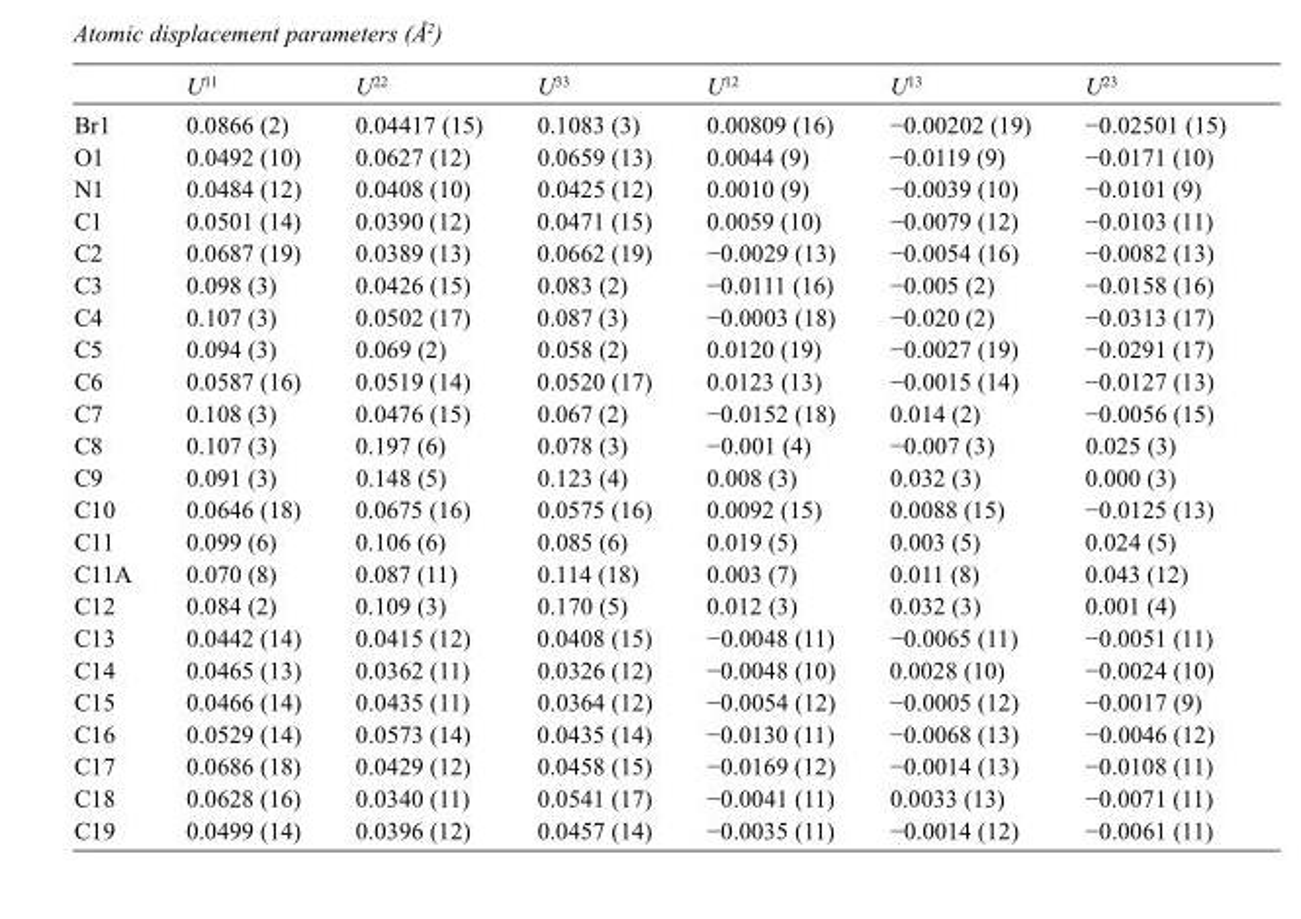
<table><thead><tr><td></td><td>U<sup>11</sup></td><td>U<sup>22</sup></td><td>U<sup>33</sup></td><td>U<sup>12</sup></td><td>U<sup>13</sup></td><td>U<sup>23</sup></td></tr></thead><tbody><tr><td>Br1</td><td>0.0866 (2)</td><td>0.04417 (15)</td><td>0.1083 (3)</td><td>0.00809 (16)</td><td>−0.00202 (19)</td><td>−0.02501 (15)</td></tr><tr><td>O1</td><td>0.0492 (10)</td><td>0.0627 (12)</td><td>0.0659 (13)</td><td>0.0044 (9)</td><td>−0.0119 (9)</td><td>−0.0171 (10)</td></tr><tr><td>N1</td><td>0.0484 (12)</td><td>0.0408 (10)</td><td>0.0425 (12)</td><td>0.0010 (9)</td><td>−0.0039 (10)</td><td>−0.0101 (9)</td></tr><tr><td>C1</td><td>0.0501 (14)</td><td>0.0390 (12)</td><td>0.0471 (15)</td><td>0.0059 (10)</td><td>−0.0079 (12)</td><td>−0.0103 (11)</td></tr><tr><td>C2</td><td>0.0687 (19)</td><td>0.0389 (13)</td><td>0.0662 (19)</td><td>−0.0029 (13)</td><td>−0.0054 (16)</td><td>−0.0082 (13)</td></tr><tr><td>C3</td><td>0.098 (3)</td><td>0.0426 (15)</td><td>0.083 (2)</td><td>−0.0111 (16)</td><td>−0.005 (2)</td><td>−0.0158 (16)</td></tr><tr><td>C4</td><td>0.107 (3)</td><td>0.0502 (17)</td><td>0.087 (3)</td><td>−0.0003 (18)</td><td>−0.020 (2)</td><td>−0.0313 (17)</td></tr><tr><td>C5</td><td>0.094 (3)</td><td>0.069 (2)</td><td>0.058 (2)</td><td>0.0120 (19)</td><td>−0.0027 (19)</td><td>−0.0291 (17)</td></tr><tr><td>C6</td><td>0.0587 (16)</td><td>0.0519 (14)</td><td>0.0520 (17)</td><td>0.0123 (13)</td><td>−0.0015 (14)</td><td>−0.0127 (13)</td></tr><tr><td>C7</td><td>0.108 (3)</td><td>0.0476 (15)</td><td>0.067 (2)</td><td>−0.0152 (18)</td><td>0.014 (2)</td><td>−0.0056 (15)</td></tr><tr><td>C8</td><td>0.107 (3)</td><td>0.197 (6)</td><td>0.078 (3)</td><td>−0.001 (4)</td><td>−0.007 (3)</td><td>0.025 (3)</td></tr><tr><td>C9</td><td>0.091 (3)</td><td>0.148 (5)</td><td>0.123 (4)</td><td>0.008 (3)</td><td>0.032 (3)</td><td>0.000 (3)</td></tr><tr><td>C10</td><td>0.0646 (18)</td><td>0.0675 (16)</td><td>0.0575 (16)</td><td>0.0092 (15)</td><td>0.0088 (15)</td><td>−0.0125 (13)</td></tr><tr><td>C11</td><td>0.099 (6)</td><td>0.106 (6)</td><td>0.085 (6)</td><td>0.019 (5)</td><td>0.003 (5)</td><td>0.024 (5)</td></tr><tr><td>C11A</td><td>0.070 (8)</td><td>0.087 (11)</td><td>0.114 (18)</td><td>0.003 (7)</td><td>0.011 (8)</td><td>0.043 (12)</td></tr><tr><td>C12</td><td>0.084 (2)</td><td>0.109 (3)</td><td>0.170 (5)</td><td>0.012 (3)</td><td>0.032 (3)</td><td>0.001 (4)</td></tr><tr><td>C13</td><td>0.0442 (14)</td><td>0.0415 (12)</td><td>0.0408 (15)</td><td>−0.0048 (11)</td><td>−0.0065 (11)</td><td>−0.0051 (11)</td></tr><tr><td>C14</td><td>0.0465 (13)</td><td>0.0362 (11)</td><td>0.0326 (12)</td><td>−0.0048 (10)</td><td>0.0028 (10)</td><td>−0.0024 (10)</td></tr><tr><td>C15</td><td>0.0466 (14)</td><td>0.0435 (11)</td><td>0.0364 (12)</td><td>−0.0054 (12)</td><td>−0.0005 (12)</td><td>−0.0017 (9)</td></tr><tr><td>C16</td><td>0.0529 (14)</td><td>0.0573 (14)</td><td>0.0435 (14)</td><td>−0.0130 (11)</td><td>−0.0068 (13)</td><td>−0.0046 (12)</td></tr><tr><td>C17</td><td>0.0686 (18)</td><td>0.0429 (12)</td><td>0.0458 (15)</td><td>−0.0169 (12)</td><td>−0.0014 (13)</td><td>−0.0108 (11)</td></tr><tr><td>C18</td><td>0.0628 (16)</td><td>0.0340 (11)</td><td>0.0541 (17)</td><td>−0.0041 (11)</td><td>0.0033 (13)</td><td>−0.0071 (11)</td></tr><tr><td>C19</td><td>0.0499 (14)</td><td>0.0396 (12)</td><td>0.0457 (14)</td><td>−0.0035 (11)</td><td>−0.0014 (12)</td><td>−0.0061 (11)</td></tr></tbody></table>